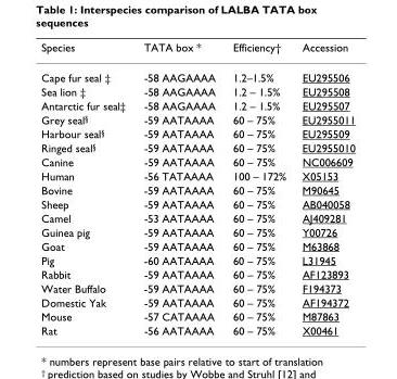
<table><thead><tr><td>Species</td><td>TATA box *</td><td>Efficiency†</td><td>Accession</td></tr></thead><tbody><tr><td>Cape fur seal ‡</td><td>-58 AAGAAAA</td><td>1.2–1.5%</td><td>EU295506</td></tr><tr><td>Sea lion ‡</td><td>-58 AAGAAAA</td><td>1.2 – 1.5%</td><td>EU295508</td></tr><tr><td>Antarctic fur seal‡</td><td>-58 AAGAAAA</td><td>1.2 – 1.5%</td><td>EU295507</td></tr><tr><td>Grey seal<sup>§</sup></td><td>-59 AATAAAA</td><td>60 – 75%</td><td>EU2955011</td></tr><tr><td>Harbour seal<sup>§</sup></td><td>-59 AATAAAA</td><td>60 – 75%</td><td>EU295509</td></tr><tr><td>Ringed seal<sup>§</sup></td><td>-59 AATAAAA</td><td>60 – 75%</td><td>EU2955010</td></tr><tr><td>Canine</td><td>-59 AATAAAA</td><td>60 – 75%</td><td>NC006609</td></tr><tr><td>Human</td><td>-56 TATAAAA</td><td>100 – 172%</td><td>X05153</td></tr><tr><td>Bovine</td><td>-59 AATAAAA</td><td>60 – 75%</td><td>M90645</td></tr><tr><td>Sheep</td><td>-59 AATAAAA</td><td>60 – 75%</td><td>AB040058</td></tr><tr><td>Camel</td><td>-53 AATAAAA</td><td>60 – 75%</td><td>AJ409281</td></tr><tr><td>Guinea pig</td><td>-59 AATAAAA</td><td>60 – 75%</td><td>Y00726</td></tr><tr><td>Goat</td><td>-59 AATAAAA</td><td>60 – 75%</td><td>M63868</td></tr><tr><td>Pig</td><td>-60 AATAAAA</td><td>60 – 75%</td><td>L31945</td></tr><tr><td>Rabbit</td><td>-59 AATAAAA</td><td>60 – 75%</td><td>AF123893</td></tr><tr><td>Water Buffalo</td><td>-59 AATAAAA</td><td>60 – 75%</td><td>F194373</td></tr><tr><td>Domestic Yak</td><td>-59 AATAAAA</td><td>60 – 75%</td><td>AF194372</td></tr><tr><td>Mouse</td><td>-57 CATAAAA</td><td>60 – 75%</td><td>M87863</td></tr><tr><td>Rat</td><td>-56 AATAAAA</td><td>60 – 75%</td><td>X00461</td></tr></tbody></table>